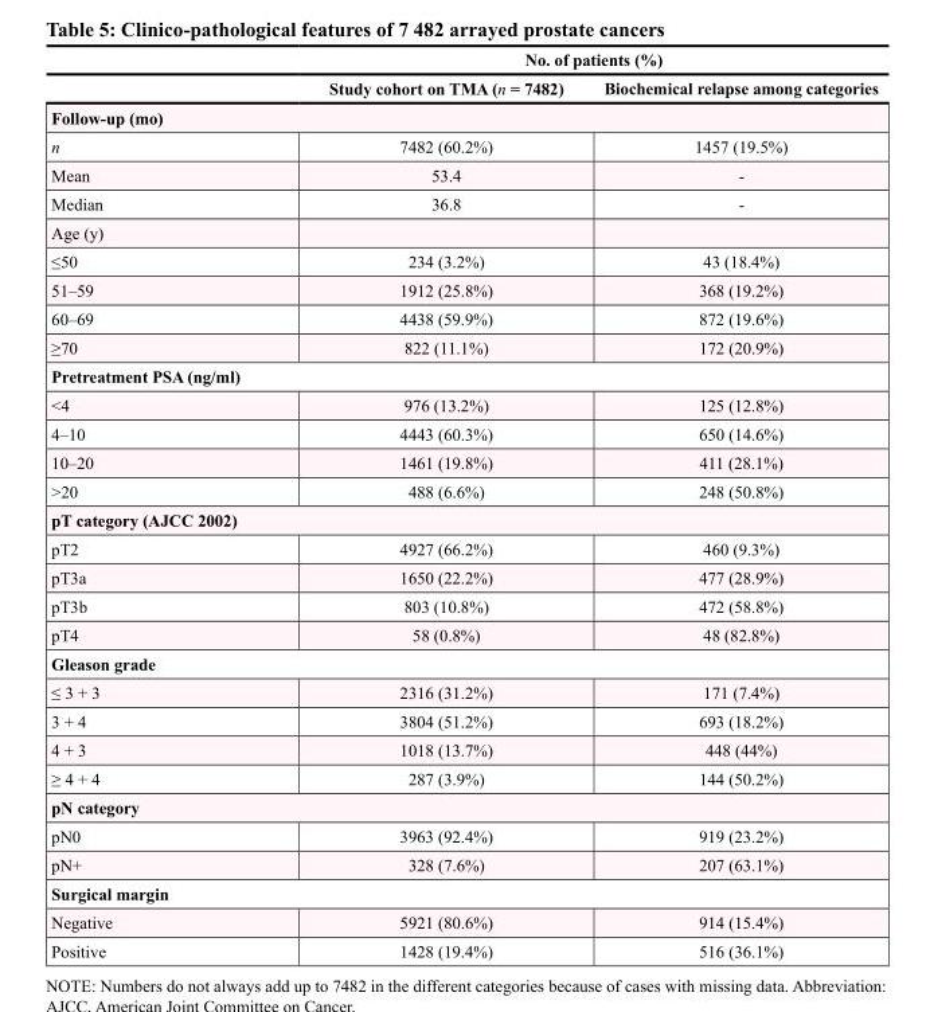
<table><thead><tr><td rowspan="2"></td><td colspan="2">No. of patients (%)</td></tr><tr><td>Study cohort on TMA (n = 7482)</td><td>Biochemical relapse among categories</td></tr></thead><tbody><tr><td colspan="3">Follow-up (mo)</td></tr><tr><td>n</td><td>7482 (60.2%)</td><td>1457 (19.5%)</td></tr><tr><td>Mean</td><td>53.4</td><td>-</td></tr><tr><td>Median</td><td>36.8</td><td>-</td></tr><tr><td colspan="3">Age (y)</td></tr><tr><td>≤50</td><td>234 (3.2%)</td><td>43 (18.4%)</td></tr><tr><td>51–59</td><td>1912 (25.8%)</td><td>368 (19.2%)</td></tr><tr><td>60–69</td><td>4438 (59.9%)</td><td>872 (19.6%)</td></tr><tr><td>≥70</td><td>822 (11.1%)</td><td>172 (20.9%)</td></tr><tr><td colspan="3">Pretreatment PSA (ng/ml)</td></tr><tr><td>&lt;4</td><td>976 (13.2%)</td><td>125 (12.8%)</td></tr><tr><td>4–10</td><td>4443 (60.3%)</td><td>650 (14.6%)</td></tr><tr><td>10–20</td><td>1461 (19.8%)</td><td>411 (28.1%)</td></tr><tr><td>&gt;20</td><td>488 (6.6%)</td><td>248 (50.8%)</td></tr><tr><td colspan="3">pT category (AJCC 2002)</td></tr><tr><td>pT2</td><td>4927 (66.2%)</td><td>460 (9.3%)</td></tr><tr><td>pT3a</td><td>1650 (22.2%)</td><td>477 (28.9%)</td></tr><tr><td>pT3b</td><td>803 (10.8%)</td><td>472 (58.8%)</td></tr><tr><td>pT4</td><td>58 (0.8%)</td><td>48 (82.8%)</td></tr><tr><td colspan="3">Gleason grade</td></tr><tr><td>≤ 3 + 3</td><td>2316 (31.2%)</td><td>171 (7.4%)</td></tr><tr><td>3 + 4</td><td>3804 (51.2%)</td><td>693 (18.2%)</td></tr><tr><td>4 + 3</td><td>1018 (13.7%)</td><td>448 (44%)</td></tr><tr><td>≥ 4 + 4</td><td>287 (3.9%)</td><td>144 (50.2%)</td></tr><tr><td colspan="3">pN category</td></tr><tr><td>pN0</td><td>3963 (92.4%)</td><td>919 (23.2%)</td></tr><tr><td>pN+</td><td>328 (7.6%)</td><td>207 (63.1%)</td></tr><tr><td colspan="3">Surgical margin</td></tr><tr><td>Negative</td><td>5921 (80.6%)</td><td>914 (15.4%)</td></tr><tr><td>Positive</td><td>1428 (19.4%)</td><td>516 (36.1%)</td></tr></tbody></table>